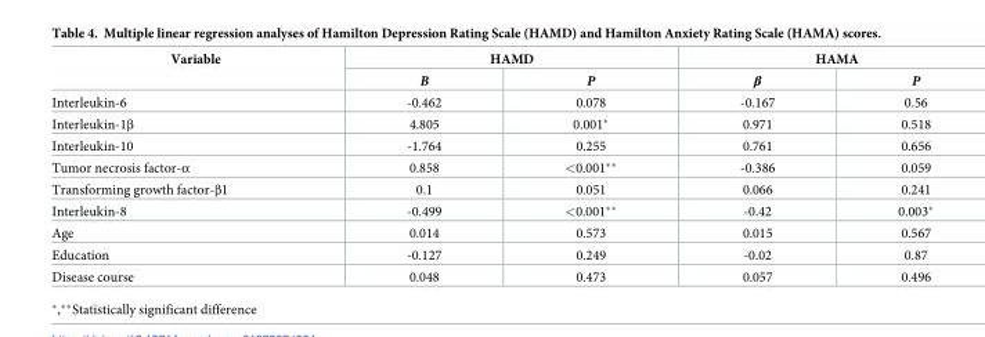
<table><thead><tr><td rowspan="2">Variable</td><td colspan="2">HAMD</td><td colspan="2">HAMA</td></tr><tr><td>B</td><td>P</td><td>β</td><td>P</td></tr></thead><tbody><tr><td>Interleukin-6</td><td>-0.462</td><td>0.078</td><td>-0.167</td><td>0.56</td></tr><tr><td>Interleukin-1β</td><td>4.805</td><td>0.001*</td><td>0.971</td><td>0.518</td></tr><tr><td>Interleukin-10</td><td>-1.764</td><td>0.255</td><td>0.761</td><td>0.656</td></tr><tr><td>Tumor necrosis factor-α</td><td>0.858</td><td>&lt;0.001**</td><td>-0.386</td><td>0.059</td></tr><tr><td>Transforming growth factor-β1</td><td>0.1</td><td>0.051</td><td>0.066</td><td>0.241</td></tr><tr><td>Interleukin-8</td><td>-0.499</td><td>&lt;0.001**</td><td>-0.42</td><td>0.003*</td></tr><tr><td>Age</td><td>0.014</td><td>0.573</td><td>0.015</td><td>0.567</td></tr><tr><td>Education</td><td>-0.127</td><td>0.249</td><td>-0.02</td><td>0.87</td></tr><tr><td>Disease course</td><td>0.048</td><td>0.473</td><td>0.057</td><td>0.496</td></tr></tbody></table>